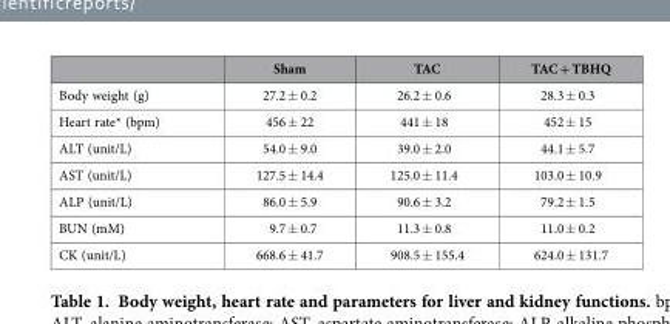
<table><thead><tr><td></td><td>Sham</td><td>TAC</td><td>TAC + TBHQ</td></tr></thead><tbody><tr><td>Body weight (g)</td><td>27.2 ± 0.2</td><td>26.2 ± 0.6</td><td>28.3 ± 0.3</td></tr><tr><td>Heart rate* (bpm)</td><td>456 ± 22</td><td>441 ± 18</td><td>452 ± 15</td></tr><tr><td>ALT (unit/L)</td><td>54.0 ± 9.0</td><td>39.0 ± 2.0</td><td>44.1 ± 5.7</td></tr><tr><td>AST (unit/L)</td><td>127.5 ± 14.4</td><td>125.0 ± 11.4</td><td>103.0 ± 10.9</td></tr><tr><td>ALP (unit/L)</td><td>86.0 ± 5.9</td><td>90.6 ± 3.2</td><td>79.2 ± 1.5</td></tr><tr><td>BUN (mM)</td><td>9.7 ± 0.7</td><td>11.3 ± 0.8</td><td>11.0 ± 0.2</td></tr><tr><td>CK (unit/L)</td><td>668.6 ± 41.7</td><td>908.5 ± 155.4</td><td>624.0 ± 131.7</td></tr></tbody></table>